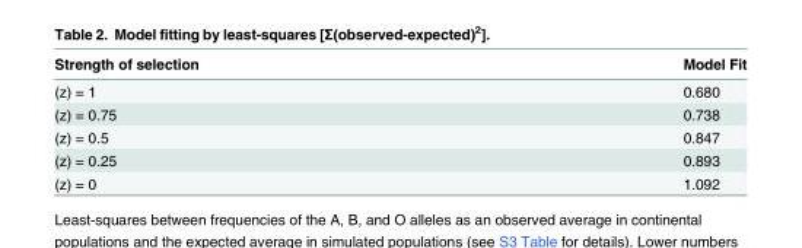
<table><thead><tr><td>Strength of selection</td><td>Model Fit</td></tr></thead><tbody><tr><td>(z) = 1</td><td>0.680</td></tr><tr><td>(z) = 0.75</td><td>0.738</td></tr><tr><td>(z) = 0.5</td><td>0.847</td></tr><tr><td>(z) = 0.25</td><td>0.893</td></tr><tr><td>(z) = 0</td><td>1.092</td></tr></tbody></table>